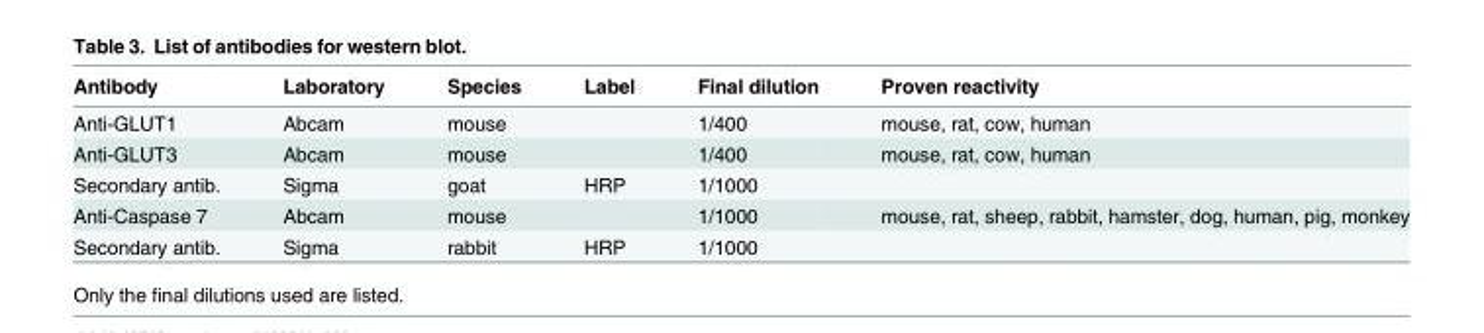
<table><thead><tr><td>Antibody</td><td>Laboratory</td><td>Species</td><td>Label</td><td>Final dilution</td><td>Proven reactivity</td></tr></thead><tbody><tr><td>Anti-GLUT1</td><td>Abcam</td><td>mouse</td><td></td><td>1/400</td><td>mouse, rat, cow, human</td></tr><tr><td>Anti-GLUT3</td><td>Abcam</td><td>mouse</td><td></td><td>1/400</td><td>mouse, rat, cow, human</td></tr><tr><td>Secondary antib.</td><td>Sigma</td><td>goat</td><td>HRP</td><td>1/1000</td><td></td></tr><tr><td>Anti-Caspase 7</td><td>Abcam</td><td>mouse</td><td></td><td>1/1000</td><td>mouse, rat, sheep, rabbit, hamster, dog, human, pig, monkey</td></tr><tr><td>Secondary antib.</td><td>Sigma</td><td>rabbit</td><td>HRP</td><td>1/1000</td><td></td></tr></tbody></table>